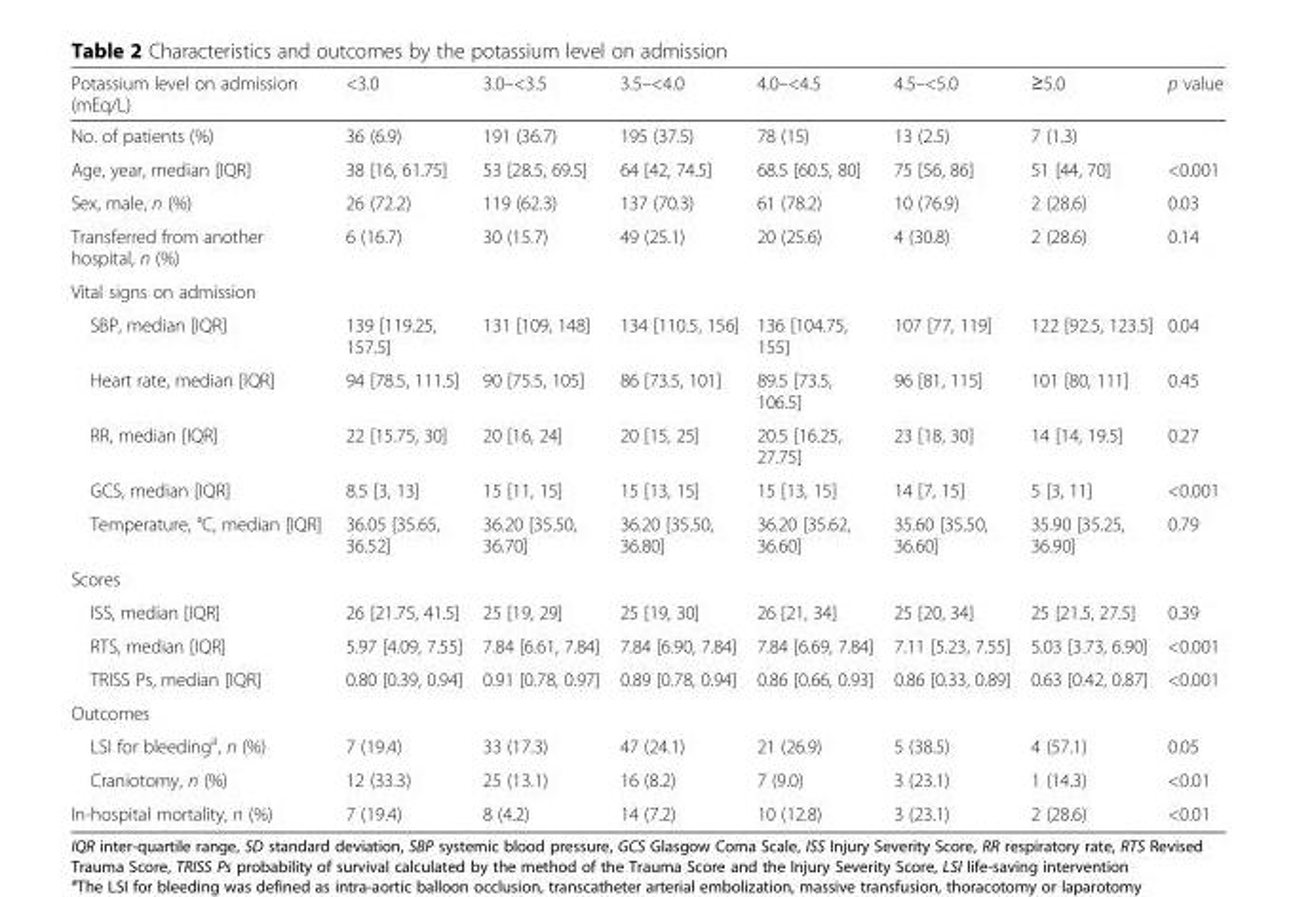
<table><thead><tr><td>Potassium level on admission (mEq/L)</td><td>&lt;3.0</td><td>3.0–&lt;3.5</td><td>3.5–&lt;4.0</td><td>4.0–&lt;4.5</td><td>4.5–&lt;5.0</td><td>≥5.0</td><td>p value</td></tr></thead><tbody><tr><td>No. of patients (%)</td><td>36 (6.9)</td><td>191 (36.7)</td><td>195 (37.5)</td><td>78 (15)</td><td>13 (2.5)</td><td>7 (1.3)</td><td></td></tr><tr><td>Age, year, median [IQR]</td><td>38 [16, 61.75]</td><td>53 [28.5, 69.5]</td><td>64 [42, 74.5]</td><td>68.5 [60.5, 80]</td><td>75 [56, 86]</td><td>51 [44, 70]</td><td>&lt;0.001</td></tr><tr><td>Sex, male, n (%)</td><td>26 (72.2)</td><td>119 (62.3)</td><td>137 (70.3)</td><td>61 (78.2)</td><td>10 (76.9)</td><td>2 (28.6)</td><td>0.03</td></tr><tr><td>Transferred from another hospital, n (%)</td><td>6 (16.7)</td><td>30 (15.7)</td><td>49 (25.1)</td><td>20 (25.6)</td><td>4 (30.8)</td><td>2 (28.6)</td><td>0.14</td></tr><tr><td colspan="8">Vital signs on admission</td></tr><tr><td>SBP, median [IQR]</td><td>139 [119.25, 157.5]</td><td>131 [109, 148]</td><td>134 [110.5, 156]</td><td>136 [104.75, 155]</td><td>107 [77, 119]</td><td>122 [92.5, 123.5]</td><td>0.04</td></tr><tr><td>Heart rate, median [IQR]</td><td>94 [78.5, 111.5]</td><td>90 [75.5, 105]</td><td>86 [73.5, 101]</td><td>89.5 [73.5, 106.5]</td><td>96 [81, 115]</td><td>101 [80, 111]</td><td>0.45</td></tr><tr><td>RR, median [IQR]</td><td>22 [15.75, 30]</td><td>20 [16, 24]</td><td>20 [15, 25]</td><td>20.5 [16.25, 27.75]</td><td>23 [18, 30]</td><td>14 [14, 19.5]</td><td>0.27</td></tr><tr><td>GCS, median [IQR]</td><td>8.5 [3, 13]</td><td>15 [11, 15]</td><td>15 [13, 15]</td><td>15 [13, 15]</td><td>14 [7, 15]</td><td>5 [3, 11]</td><td>&lt;0.001</td></tr><tr><td>Temperature, °C, median [IQR]</td><td>36.05 [35.65, 36.52]</td><td>36.20 [35.50, 36.70]</td><td>36.20 [35.50, 36.80]</td><td>36.20 [35.62, 36.60]</td><td>35.60 [35.50, 36.60]</td><td>35.90 [35.25, 36.90]</td><td>0.79</td></tr><tr><td colspan="8">Scores</td></tr><tr><td>ISS, median [IQR]</td><td>26 [21.75, 41.5]</td><td>25 [19, 29]</td><td>25 [19, 30]</td><td>26 [21, 34]</td><td>25 [20, 34]</td><td>25 [21.5, 27.5]</td><td>0.39</td></tr><tr><td>RTS, median [IQR]</td><td>5.97 [4.09, 7.55]</td><td>7.84 [6.61, 7.84]</td><td>7.84 [6.90, 7.84]</td><td>7.84 [6.69, 7.84]</td><td>7.11 [5.23, 7.55]</td><td>5.03 [3.73, 6.90]</td><td>&lt;0.001</td></tr><tr><td>TRISS Ps, median [IQR]</td><td>0.80 [0.39, 0.94]</td><td>0.91 [0.78, 0.97]</td><td>0.89 [0.78, 0.94]</td><td>0.86 [0.66, 0.93]</td><td>0.86 [0.33, 0.89]</td><td>0.63 [0.42, 0.87]</td><td>&lt;0.001</td></tr><tr><td colspan="8">Outcomes</td></tr><tr><td>LSI for bleeding<sup>a</sup>, n (%)</td><td>7 (19.4)</td><td>33 (17.3)</td><td>47 (24.1)</td><td>21 (26.9)</td><td>5 (38.5)</td><td>4 (57.1)</td><td>0.05</td></tr><tr><td>Craniotomy, n (%)</td><td>12 (33.3)</td><td>25 (13.1)</td><td>16 (8.2)</td><td>7 (9.0)</td><td>3 (23.1)</td><td>1 (14.3)</td><td>&lt;0.01</td></tr><tr><td>In-hospital mortality, n (%)</td><td>7 (19.4)</td><td>8 (4.2)</td><td>14 (7.2)</td><td>10 (12.8)</td><td>3 (23.1)</td><td>2 (28.6)</td><td>&lt;0.01</td></tr></tbody></table>